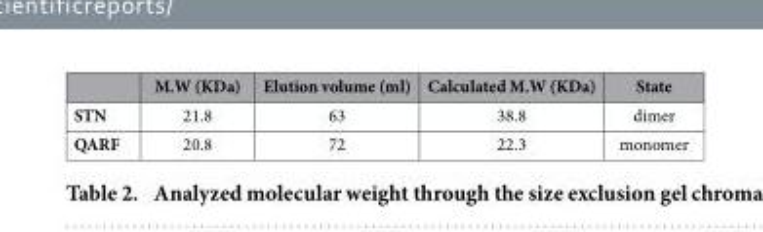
<table><thead><tr><td></td><td>M.W (KDa)</td><td>Elution volume (ml)</td><td>Calculated M.W (KDa)</td><td>State</td></tr></thead><tbody><tr><td>STN</td><td>21.8</td><td>63</td><td>38.8</td><td>dimer</td></tr><tr><td>QARF</td><td>20.8</td><td>72</td><td>22.3</td><td>monomer</td></tr></tbody></table>